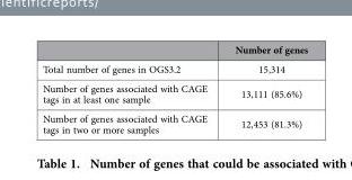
<table><thead><tr><td></td><td>Number of genes</td></tr></thead><tbody><tr><td>Total number of genes in OGS3.2</td><td>15,314</td></tr><tr><td>Number of genes associated with CAGE tags in at least one sample</td><td>13,111 (85.6%)</td></tr><tr><td>Number of genes associated with CAGE tags in two or more samples</td><td>12,453 (81.3%)</td></tr></tbody></table>